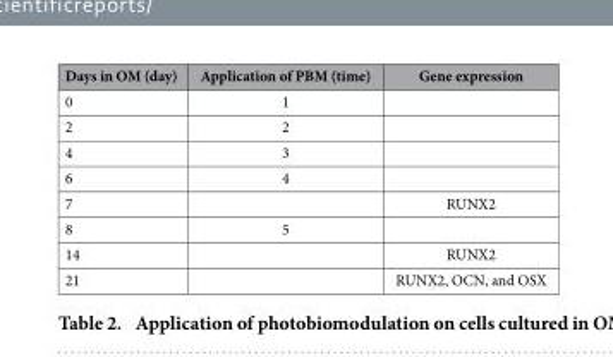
<table><thead><tr><td>Days in OM (day)</td><td>Application of PBM (time)</td><td>Gene expression</td></tr></thead><tbody><tr><td>0</td><td>1</td><td></td></tr><tr><td>2</td><td>2</td><td></td></tr><tr><td>4</td><td>3</td><td></td></tr><tr><td>6</td><td>4</td><td></td></tr><tr><td>7</td><td></td><td>RUNX2</td></tr><tr><td>8</td><td>5</td><td></td></tr><tr><td>14</td><td></td><td>RUNX2</td></tr><tr><td>21</td><td></td><td>RUNX2, OCN, and OSX</td></tr></tbody></table>